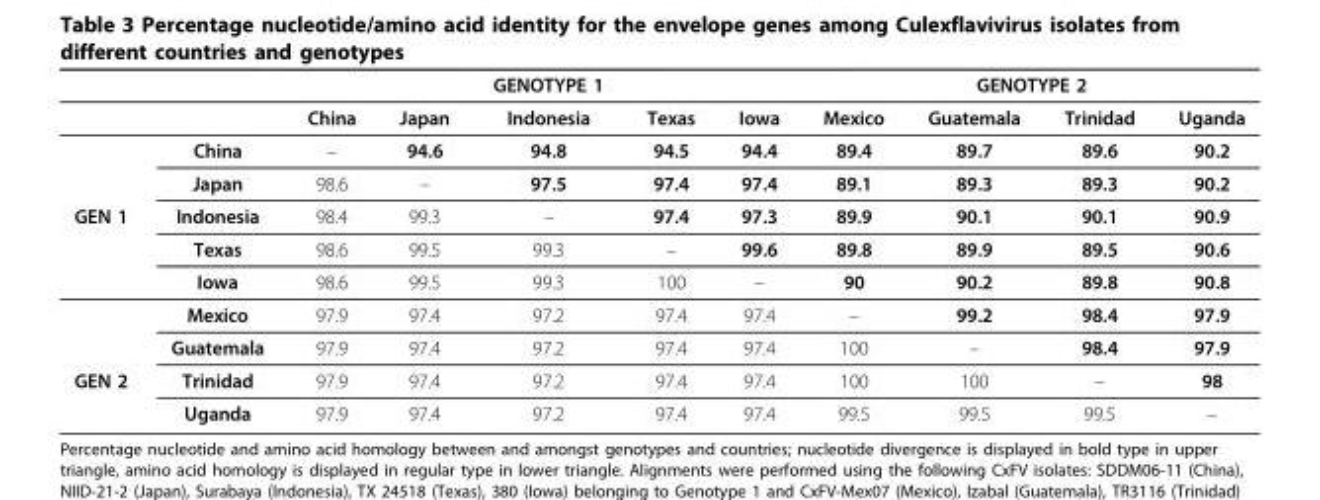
<table><thead><tr><td rowspan="2"></td><td rowspan="2"></td><td rowspan="2">China</td><td rowspan="2">Japan</td><td rowspan="2">GENOTYPE 1 Indonesia</td><td rowspan="2">Texas</td><td rowspan="2">Iowa</td><td rowspan="2">Mexico</td><td colspan="2">GENOTYPE 2</td><td rowspan="2">Uganda</td></tr><tr><td>Guatemala</td><td>Trinidad</td></tr></thead><tbody><tr><td></td><td>China</td><td>–</td><td>94.6</td><td>94.8</td><td>94.5</td><td>94.4</td><td>89.4</td><td>89.7</td><td>89.6</td><td>90.2</td></tr><tr><td></td><td>Japan</td><td>98.6</td><td>–</td><td>97.5</td><td>97.4</td><td>97.4</td><td>89.1</td><td>89.3</td><td>89.3</td><td>90.2</td></tr><tr><td rowspan="5">GEN 1</td><td>Indonesia</td><td>98.4</td><td>99.3</td><td>–</td><td>97.4</td><td>97.3</td><td>89.9</td><td>90.1</td><td>90.1</td><td>90.9</td></tr><tr><td>Texas</td><td>98.6</td><td>99.5</td><td>99.3</td><td>–</td><td>99.6</td><td>89.8</td><td>89.9</td><td>89.5</td><td>90.6</td></tr><tr><td>Iowa</td><td>98.6</td><td>99.5</td><td>99.3</td><td>100</td><td>–</td><td>90</td><td>90.2</td><td>89.8</td><td>90.8</td></tr><tr><td>Mexico</td><td>97.9</td><td>97.4</td><td>97.2</td><td>97.4</td><td>97.4</td><td>–</td><td>99.2</td><td>98.4</td><td>97.9</td></tr><tr><td>Guatemala</td><td>97.9</td><td>97.4</td><td>97.2</td><td>97.4</td><td>97.4</td><td>100</td><td>–</td><td>98.4</td><td>97.9</td></tr><tr><td rowspan="2">GEN 2</td><td>Trinidad</td><td>97.9</td><td>97.4</td><td>97.2</td><td>97.4</td><td>97.4</td><td>100</td><td>100</td><td>–</td><td>98</td></tr><tr><td>Uganda</td><td>97.9</td><td>97.4</td><td>97.2</td><td>97.4</td><td>97.4</td><td>99.5</td><td>99.5</td><td>99.5</td><td>–</td></tr></tbody></table>